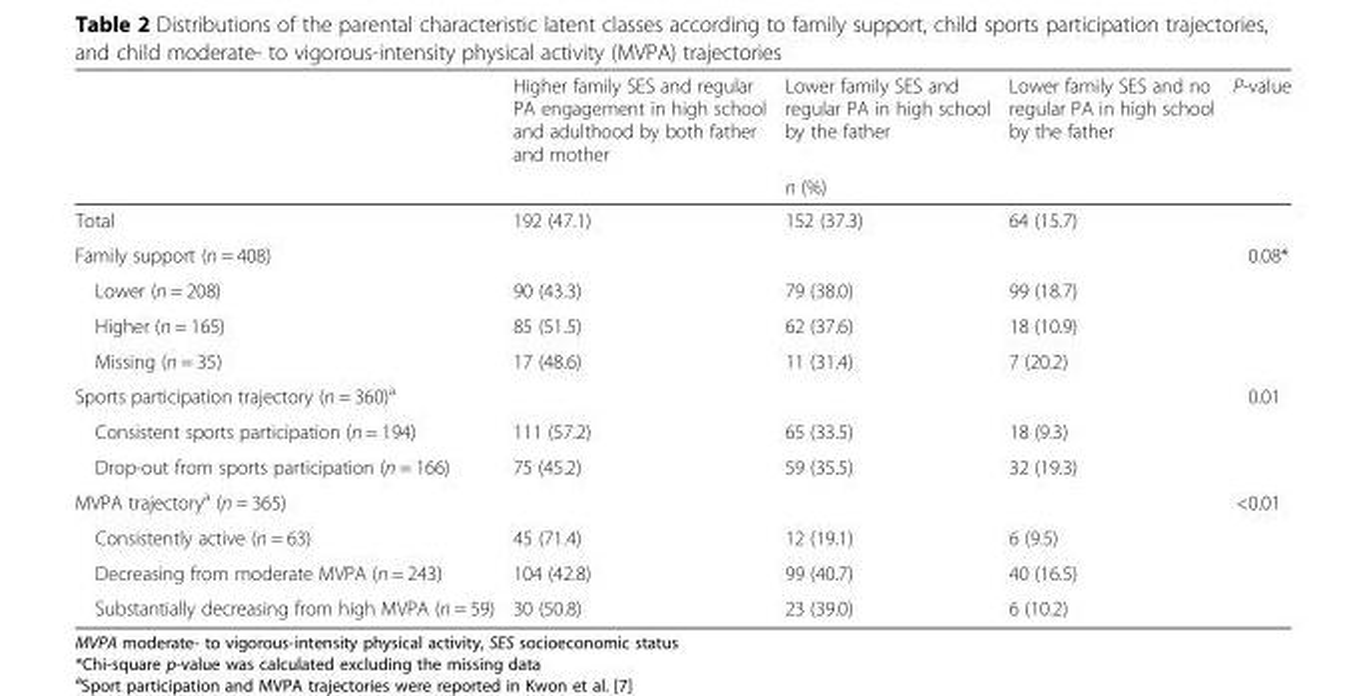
<table><thead><tr><td rowspan="2"></td><td rowspan="2">Higher family SES and regular PA engagement in high school and adulthood by both father and mother</td><td rowspan="2">Lower family SES and regular PA in high school by the father n (%)</td><td rowspan="2">Lower family SES and no regular PA in high school by the father</td><td rowspan="2">P-value</td></tr><tr></tr></thead><tbody><tr><td>Total</td><td>192 (47.1)</td><td>152 (37.3)</td><td>64 (15.7)</td><td></td></tr><tr><td>Family support (n = 408)</td><td></td><td></td><td></td><td>0.08*</td></tr><tr><td>Lower (n = 208)</td><td>90 (43.3)</td><td>79 (38.0)</td><td>99 (18.7)</td><td></td></tr><tr><td>Higher (n = 165)</td><td>85 (51.5)</td><td>62 (37.6)</td><td>18 (10.9)</td><td></td></tr><tr><td>Missing (n = 35)</td><td>17 (48.6)</td><td>11 (31.4)</td><td>7 (20.2)</td><td></td></tr><tr><td>Sports participation trajectory (n = 360)<sup>a</sup></td><td></td><td></td><td></td><td>0.01</td></tr><tr><td>Consistent sports participation (n = 194)</td><td>111 (57.2)</td><td>65 (33.5)</td><td>18 (9.3)</td><td></td></tr><tr><td>Drop-out from sports participation (n = 166)</td><td>75 (45.2)</td><td>59 (35.5)</td><td>32 (19.3)</td><td></td></tr><tr><td>MVPA trajectory<sup>a</sup> (n = 365)</td><td></td><td></td><td></td><td>&lt;0.01</td></tr><tr><td>Consistently active (n = 63)</td><td>45 (71.4)</td><td>12 (19.1)</td><td>6 (9.5)</td><td></td></tr><tr><td>Decreasing from moderate MVPA (n = 243)</td><td>104 (42.8)</td><td>99 (40.7)</td><td>40 (16.5)</td><td></td></tr><tr><td>Substantially decreasing from high MVPA (n = 59)</td><td>30 (50.8)</td><td>23 (39.0)</td><td>6 (10.2)</td><td></td></tr></tbody></table>